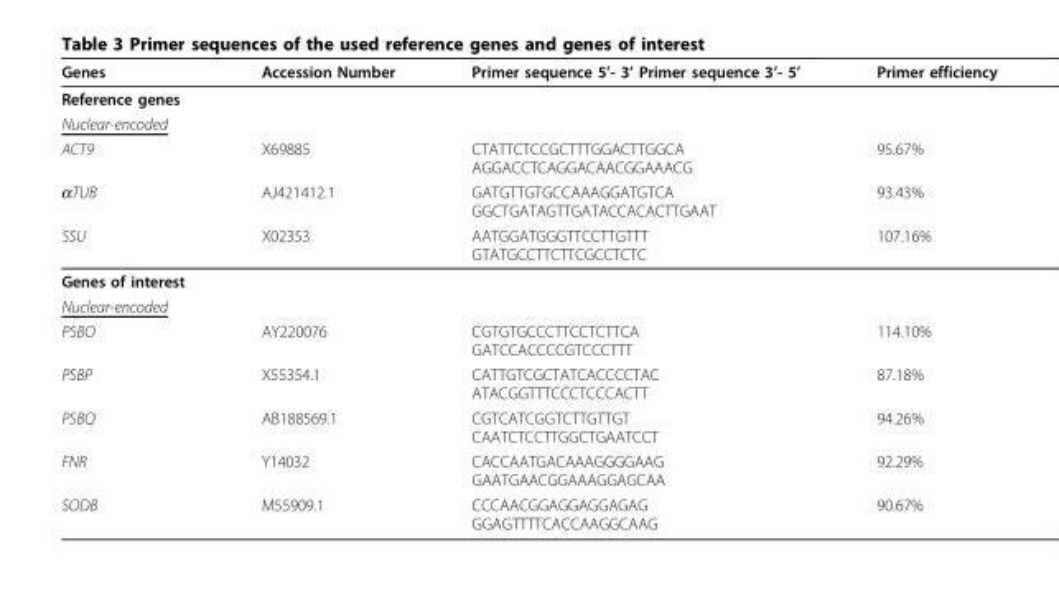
<table><thead><tr><td>Genes</td><td>Accession Number</td><td>Primer sequence 5’- 3’ Primer sequence 3’- 5’</td><td>Primer efficiency</td></tr></thead><tbody><tr><td colspan="4">Reference genes</td></tr><tr><td colspan="4">Nuclear-encoded</td></tr><tr><td>ACT9</td><td>X69885</td><td>CTATTCTCCGCTTTGGACTTGGCA AGGACCTCAGGACAACGGAAACG</td><td>95.67%</td></tr><tr><td>αTUB</td><td>AJ421412.1</td><td>GATGTTGTGCCAAAGGATGTCA GGCTGATAGTTGATACCACACTTGAAT</td><td>93.43%</td></tr><tr><td>SSU</td><td>X02353</td><td>AATGGATGGGTTCCTTGTTT GTATGCCTTCTTCGCCTCTC</td><td>107.16%</td></tr><tr><td colspan="4">Genes of interest</td></tr><tr><td colspan="4">Nuclear-encoded</td></tr><tr><td>PSBO</td><td>AY220076</td><td>CGTGTGCCCTTCCTCTTCA GATCCACCCCGTCCCTTT</td><td>114.10%</td></tr><tr><td>PSBP</td><td>X55354.1</td><td>CATTGTCGCTATCACCCCTAC ATACGGTTTCCCTCCCACTT</td><td>87.18%</td></tr><tr><td>PSBQ</td><td>AB188569.1</td><td>CGTCATCGGTCTTGTTGT CAATCTCCTTGGCTGAATCCT</td><td>94.26%</td></tr><tr><td>FNR</td><td>Y14032</td><td>CACCAATGACAAAGGGGAAG GAATGAACGGAAAGGAGCAA</td><td>92.29%</td></tr><tr><td>SODB</td><td>M55909.1</td><td>CCCAACGGAGGAGGAGAG GGAGTTTTCACCAAGGCAAG</td><td>90.67%</td></tr></tbody></table>